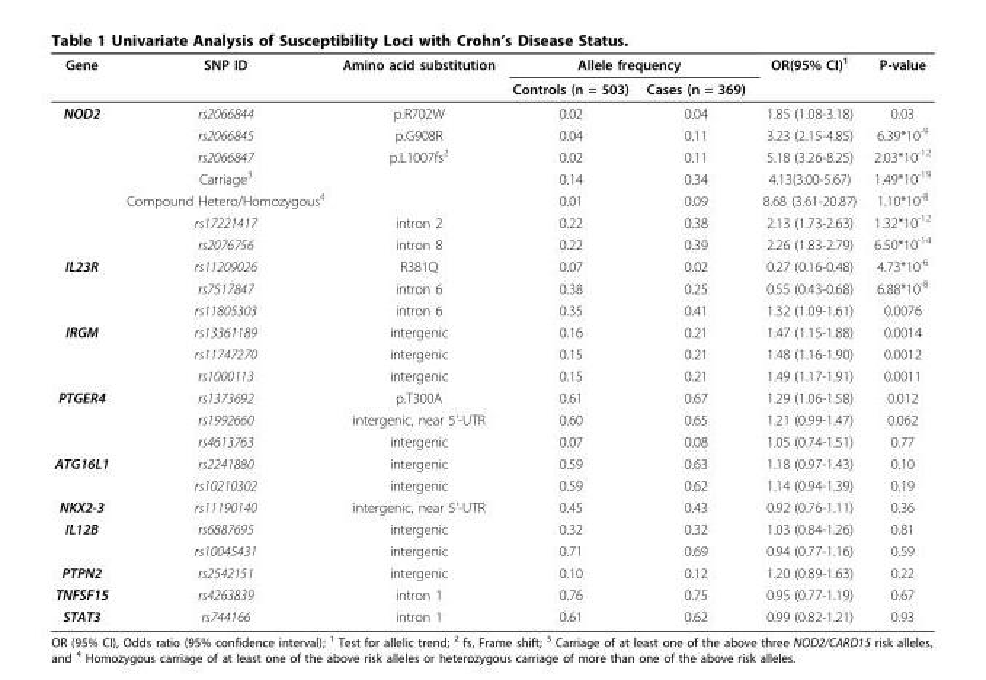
<table><thead><tr><td rowspan="2">Gene</td><td rowspan="2">SNP ID</td><td rowspan="2">Amino acid substitution</td><td colspan="2">Allele frequency</td><td rowspan="2">OR(95% CI)<sup>1</sup></td><td rowspan="2">P-value</td></tr><tr><td>Controls (n = 503)</td><td>Cases (n = 369)</td></tr></thead><tbody><tr><td rowspan="7">NOD2</td><td>rs2066844</td><td>p.R702W</td><td>0.02</td><td>0.04</td><td>1.85 (1.08-3.18)</td><td>0.03</td></tr><tr><td>rs2066845</td><td>p.G908R</td><td>0.04</td><td>0.11</td><td>3.23 (2.15-4.85)</td><td>6.39*10<sup>-9</sup></td></tr><tr><td>rs2066847</td><td>p.L1007fs<sup>2</sup></td><td>0.02</td><td>0.11</td><td>5.18 (3.26-8.25)</td><td>2.03*10<sup>-12</sup></td></tr><tr><td>Carriage<sup>3</sup></td><td></td><td>0.14</td><td>0.34</td><td>4.13(3.00-5.67)</td><td>1.49*10<sup>-19</sup></td></tr><tr><td>Compound Hetero/Homozygous<sup>4</sup></td><td></td><td>0.01</td><td>0.09</td><td>8.68 (3.61-20.87)</td><td>1.10*10<sup>-8</sup></td></tr><tr><td>rs17221417</td><td>intron 2</td><td>0.22</td><td>0.38</td><td>2.13 (1.73-2.63)</td><td>1.32*10<sup>-12</sup></td></tr><tr><td>rs2076756</td><td>intron 8</td><td>0.22</td><td>0.39</td><td>2.26 (1.83-2.79)</td><td>6.50*10<sup>-14</sup></td></tr><tr><td rowspan="3">IL23R</td><td>rs11209026</td><td>R381Q</td><td>0.07</td><td>0.02</td><td>0.27 (0.16-0.48)</td><td>4.73*10<sup>-6</sup></td></tr><tr><td>rs7517847</td><td>intron 6</td><td>0.38</td><td>0.25</td><td>0.55 (0.43-0.68)</td><td>6.88*10<sup>-8</sup></td></tr><tr><td>rs11805303</td><td>intron 6</td><td>0.35</td><td>0.41</td><td>1.32 (1.09-1.61)</td><td>0.0076</td></tr><tr><td rowspan="3">IRGM</td><td>rs13361189</td><td>intergenic</td><td>0.16</td><td>0.21</td><td>1.47 (1.15-1.88)</td><td>0.0014</td></tr><tr><td>rs11747270</td><td>intergenic</td><td>0.15</td><td>0.21</td><td>1.48 (1.16-1.90)</td><td>0.0012</td></tr><tr><td>rs1000113</td><td>intergenic</td><td>0.15</td><td>0.21</td><td>1.49 (1.17-1.91)</td><td>0.0011</td></tr><tr><td rowspan="3">PTGER4</td><td>rs1373692</td><td>p.T300A</td><td>0.61</td><td>0.67</td><td>1.29 (1.06-1.58)</td><td>0.012</td></tr><tr><td>rs1992660</td><td>intergenic, near 5’-UTR</td><td>0.60</td><td>0.65</td><td>1.21 (0.99-1.47)</td><td>0.062</td></tr><tr><td>rs4613763</td><td>intergenic</td><td>0.07</td><td>0.08</td><td>1.05 (0.74-1.51)</td><td>0.77</td></tr><tr><td rowspan="2">ATG16L1</td><td>rs2241880</td><td>intergenic</td><td>0.59</td><td>0.63</td><td>1.18 (0.97-1.43)</td><td>0.10</td></tr><tr><td>rs10210302</td><td>intergenic</td><td>0.59</td><td>0.62</td><td>1.14 (0.94-1.39)</td><td>0.19</td></tr><tr><td>NKX2-3</td><td>rs11190140</td><td>intergenic, near 5’-UTR</td><td>0.45</td><td>0.43</td><td>0.92 (0.76-1.11)</td><td>0.36</td></tr><tr><td rowspan="2">IL12B</td><td>rs6887695</td><td>intergenic</td><td>0.32</td><td>0.32</td><td>1.03 (0.84-1.26)</td><td>0.81</td></tr><tr><td>rs10045431</td><td>intergenic</td><td>0.71</td><td>0.69</td><td>0.94 (0.77-1.16)</td><td>0.59</td></tr><tr><td>PTPN2</td><td>rs2542151</td><td>intergenic</td><td>0.10</td><td>0.12</td><td>1.20 (0.89-1.63)</td><td>0.22</td></tr><tr><td>TNFSF15</td><td>rs4263839</td><td>intron 1</td><td>0.76</td><td>0.75</td><td>0.95 (0.77-1.19)</td><td>0.67</td></tr><tr><td>STAT3</td><td>rs744166</td><td>intron 1</td><td>0.61</td><td>0.62</td><td>0.99 (0.82-1.21)</td><td>0.93</td></tr></tbody></table>